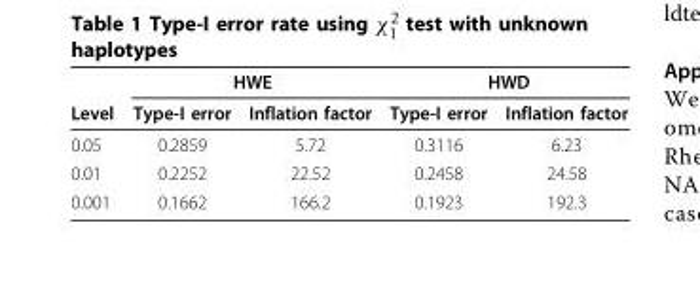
<table><thead><tr><td rowspan="2">Level</td><td colspan="2">HWE</td><td colspan="2">HWD</td></tr><tr><td>Type-I error</td><td>Inflation factor</td><td>Type-I error</td><td>Inflation factor</td></tr></thead><tbody><tr><td>0.05</td><td>0.2859</td><td>5.72</td><td>0.3116</td><td>6.23</td></tr><tr><td>0.01</td><td>0.2252</td><td>22.52</td><td>0.2458</td><td>24.58</td></tr><tr><td>0.001</td><td>0.1662</td><td>166.2</td><td>0.1923</td><td>192.3</td></tr></tbody></table>